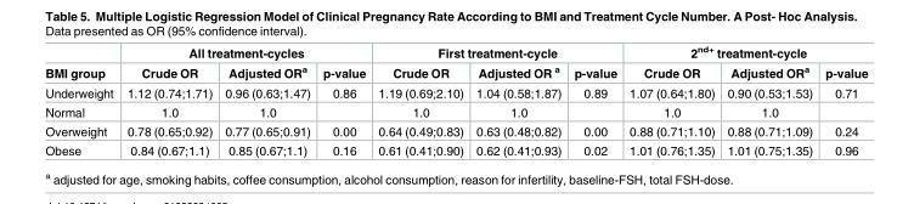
<table><thead><tr><td rowspan="2">BMI group</td><td colspan="3">All treatment-cycles</td><td colspan="3">First treatment-cycle</td><td colspan="3">2<sup>nd+</sup> treatment-cycle</td></tr><tr><td>Crude OR</td><td>Adjusted OR<sup>a</sup></td><td>p-value</td><td>Crude OR</td><td>Adjusted OR <sup>a</sup></td><td>p-value</td><td>Crude OR</td><td>Adjusted OR<sup>a</sup></td><td>p-value</td></tr></thead><tbody><tr><td>Underweight</td><td>1.12 (0.74;1.71)</td><td>0.96 (0.63;1.47)</td><td>0.86</td><td>1.19 (0.69;2.10)</td><td>1.04 (0.58;1.87)</td><td>0.89</td><td>1.07 (0.64;1.80)</td><td>0.90 (0.53;1.53)</td><td>0.71</td></tr><tr><td>Normal</td><td>1.0</td><td>1.0</td><td></td><td>1.0</td><td>1.0</td><td></td><td>1.0</td><td>1.0</td><td></td></tr><tr><td>Overweight</td><td>0.78 (0.65;0.92)</td><td>0.77 (0.65;0.91)</td><td>0.00</td><td>0.64 (0.49;0.83)</td><td>0.63 (0.48;0.82)</td><td>0.00</td><td>0.88 (0.71;1.10)</td><td>0.88 (0.71;1.09)</td><td>0.24</td></tr><tr><td>Obese</td><td>0.84 (0.67;1.1)</td><td>0.85 (0.67;1.1)</td><td>0.16</td><td>0.61 (0.41;0.90)</td><td>0.62 (0.41;0.93)</td><td>0.02</td><td>1.01 (0.76;1.35)</td><td>1.01 (0.75;1.35)</td><td>0.96</td></tr></tbody></table>